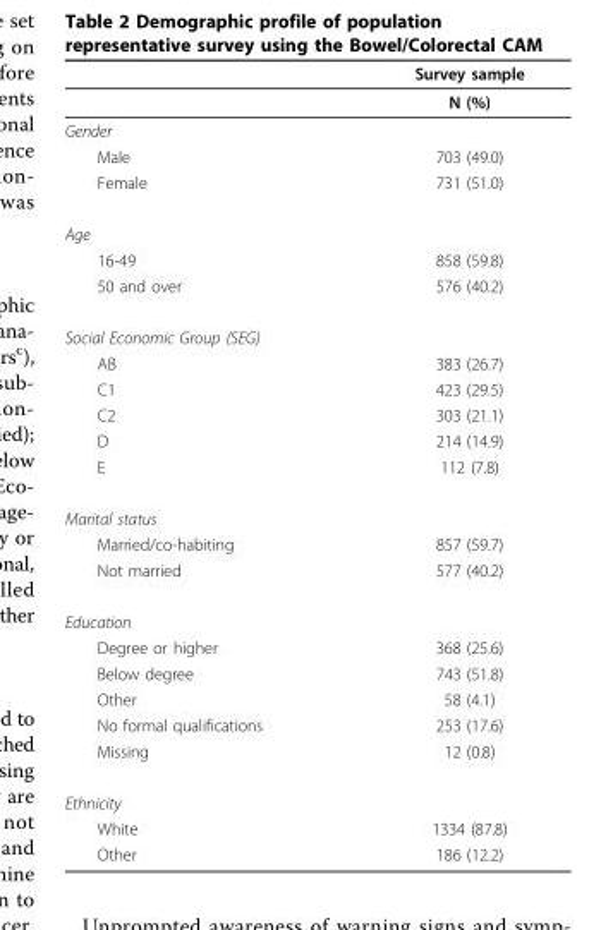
<table><thead><tr><td></td><td>Survey sample</td></tr></thead><tbody><tr><td></td><td>N (%)</td></tr><tr><td colspan="2">Gender</td></tr><tr><td>Male</td><td>703 (49.0)</td></tr><tr><td>Female</td><td>731 (51.0)</td></tr><tr><td colspan="2">Age</td></tr><tr><td>16-49</td><td>858 (59.8)</td></tr><tr><td>50 and over</td><td>576 (40.2)</td></tr><tr><td colspan="2">Social Economic Group (SEG)</td></tr><tr><td>AB</td><td>383 (26.7)</td></tr><tr><td>C1</td><td>423 (29.5)</td></tr><tr><td>C2</td><td>303 (21.1)</td></tr><tr><td>D</td><td>214 (14.9)</td></tr><tr><td>E</td><td>112 (7.8)</td></tr><tr><td colspan="2">Marital status</td></tr><tr><td>Married/co-habiting</td><td>857 (59.7)</td></tr><tr><td>Not married</td><td>577 (40.2)</td></tr><tr><td colspan="2">Education</td></tr><tr><td>Degree or higher</td><td>368 (25.6)</td></tr><tr><td>Below degree</td><td>743 (51.8)</td></tr><tr><td>Other</td><td>58 (4.1)</td></tr><tr><td>No formal qualifications</td><td>253 (17.6)</td></tr><tr><td>Missing</td><td>12 (0.8)</td></tr><tr><td colspan="2">Ethnicity</td></tr><tr><td>White</td><td>1334 (87.8)</td></tr><tr><td>Other</td><td>186 (12.2)</td></tr></tbody></table>